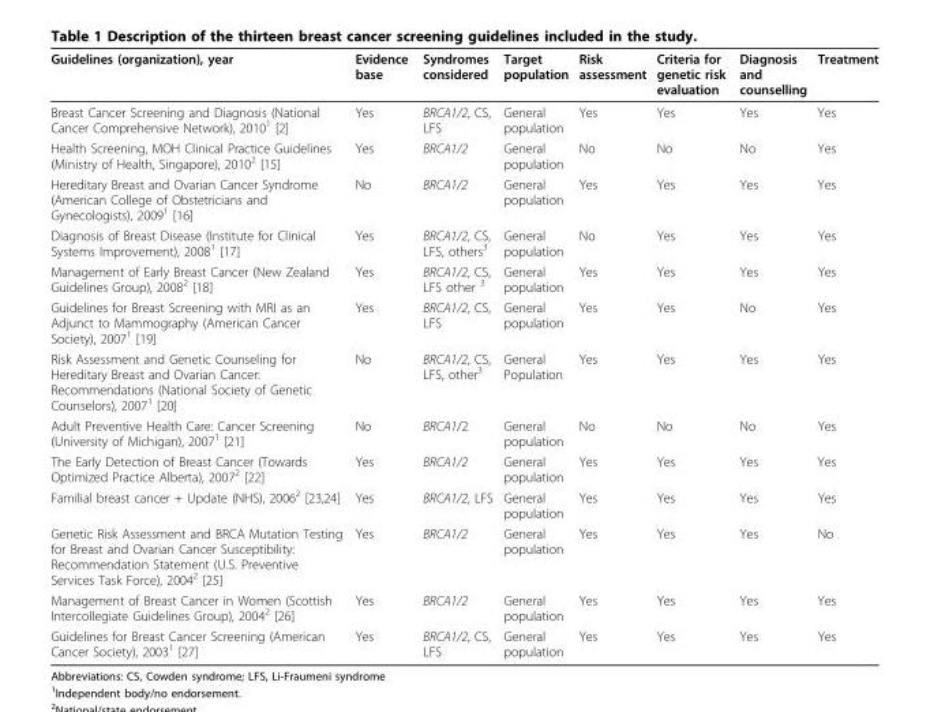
<table><thead><tr><td>Guidelines (organization), year</td><td>Evidence base</td><td>Syndromes considered</td><td>Target population</td><td>Risk assessment</td><td>Criteria for genetic risk evaluation</td><td>Diagnosis and counselling</td><td>Treatment</td></tr></thead><tbody><tr><td>Breast Cancer Screening and Diagnosis (National Cancer Comprehensive Network), 2010<sup>1</sup> [2]</td><td>Yes</td><td>BRCA1/2, CS, LFS</td><td>General population</td><td>Yes</td><td>Yes</td><td>Yes</td><td>Yes</td></tr><tr><td>Health Screening, MOH Clinical Practice Guidelines (Ministry of Health, Singapore), 2010<sup>2</sup> [15]</td><td>Yes</td><td>BRCA1/2</td><td>General population</td><td>No</td><td>No</td><td>No</td><td>Yes</td></tr><tr><td>Hereditary Breast and Ovarian Cancer Syndrome (American College of Obstetricians and Gynecologists), 2009<sup>1</sup> [16]</td><td>No</td><td>BRCA1/2</td><td>General population</td><td>Yes</td><td>Yes</td><td>Yes</td><td>Yes</td></tr><tr><td>Diagnosis of Breast Disease (Institute for Clinical Systems Improvement), 2008<sup>1</sup> [17]</td><td>Yes</td><td>BRCA1/2, CS, LFS, others<sup>3</sup></td><td>General population</td><td>No</td><td>Yes</td><td>Yes</td><td>Yes</td></tr><tr><td>Management of Early Breast Cancer (New Zealand Guidelines Group), 2008<sup>2</sup> [18]</td><td>Yes</td><td>BRCA1/2, CS, LFS other <sup>3</sup></td><td>General population</td><td>Yes</td><td>Yes</td><td>Yes</td><td>Yes</td></tr><tr><td>Guidelines for Breast Screening with MRI as an Adjunct to Mammography (American Cancer Society), 2007<sup>1</sup> [19]</td><td>Yes</td><td>BRCA1/2, CS, LFS</td><td>General population</td><td>Yes</td><td>Yes</td><td>No</td><td>Yes</td></tr><tr><td>Risk Assessment and Genetic Counseling for Hereditary Breast and Ovarian Cancer: Recommendations (National Society of Genetic Counselors), 2007<sup>1</sup> [20]</td><td>No</td><td>BRCA1/2, CS, LFS, other<sup>3</sup></td><td>General Population</td><td>Yes</td><td>Yes</td><td>Yes</td><td>Yes</td></tr><tr><td>Adult Preventive Health Care: Cancer Screening (University of Michigan), 2007<sup>1</sup> [21]</td><td>No</td><td>BRCA1/2</td><td>General population</td><td>No</td><td>No</td><td>No</td><td>Yes</td></tr><tr><td>The Early Detection of Breast Cancer (Towards Optimized Practice Alberta), 2007<sup>2</sup> [22]</td><td>Yes</td><td>BRCA1/2</td><td>General population</td><td>Yes</td><td>Yes</td><td>Yes</td><td>Yes</td></tr><tr><td>Familial breast cancer + Update (NHS), 2006<sup>2</sup> [23,24]</td><td>Yes</td><td>BRCA1/2, LFS</td><td>General population</td><td>Yes</td><td>Yes</td><td>Yes</td><td>Yes</td></tr><tr><td>Genetic Risk Assessment and BRCA Mutation Testing for Breast and Ovarian Cancer Susceptibility: Recommendation Statement (U.S. Preventive Services Task Force), 2004<sup>2</sup> [25]</td><td>Yes</td><td>BRCA1/2</td><td>General population</td><td>Yes</td><td>Yes</td><td>Yes</td><td>No</td></tr><tr><td>Management of Breast Cancer in Women (Scottish Intercollegiate Guidelines Group), 2004<sup>2</sup> [26]</td><td>Yes</td><td>BRCA1/2</td><td>General population</td><td>Yes</td><td>Yes</td><td>Yes</td><td>Yes</td></tr><tr><td>Guidelines for Breast Cancer Screening (American Cancer Society), 2003<sup>1</sup> [27]</td><td>Yes</td><td>BRCA1/2, CS, LFS</td><td>General population</td><td>Yes</td><td>Yes</td><td>Yes</td><td>Yes</td></tr></tbody></table>